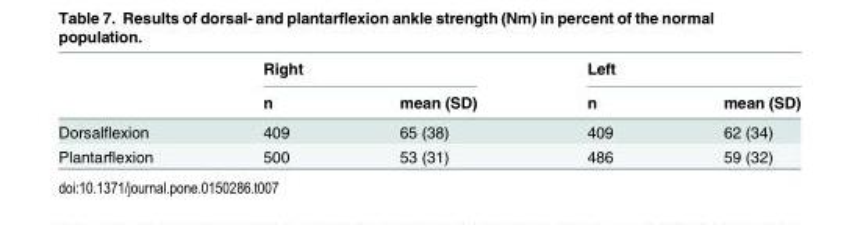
<table><thead><tr><td rowspan="2"></td><td colspan="2">Right</td><td colspan="2">Left</td></tr><tr><td>n</td><td>mean (SD)</td><td>n</td><td>mean (SD)</td></tr></thead><tbody><tr><td>Dorsalflexion</td><td>409</td><td>65 (38)</td><td>409</td><td>62 (34)</td></tr><tr><td>Plantarflexion</td><td>500</td><td>53 (31)</td><td>486</td><td>59 (32)</td></tr></tbody></table>